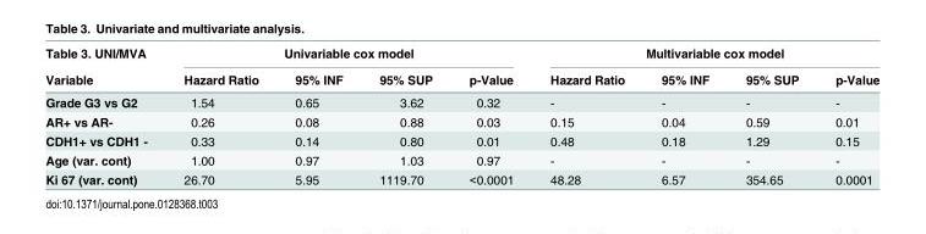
<table><thead><tr><td rowspan="2">Table 3. UNI/MVA Variable</td><td colspan="4">Univariable cox model</td><td colspan="4">Multivariable cox model</td></tr><tr><td>Hazard Ratio</td><td>95% INF</td><td>95% SUP</td><td>p-Value</td><td>Hazard Ratio</td><td>95% INF</td><td>95% SUP</td><td>p-Value</td></tr></thead><tbody><tr><td>Grade G3 vs G2</td><td>1.54</td><td>0.65</td><td>3.62</td><td>0.32</td><td>-</td><td>-</td><td>-</td><td>-</td></tr><tr><td>AR+ vs AR-</td><td>0.26</td><td>0.08</td><td>0.88</td><td>0.03</td><td>0.15</td><td>0.04</td><td>0.59</td><td>0.01</td></tr><tr><td>CDH1+ vs CDH1 -</td><td>0.33</td><td>0.14</td><td>0.80</td><td>0.01</td><td>0.48</td><td>0.18</td><td>1.29</td><td>0.15</td></tr><tr><td>Age (var. cont)</td><td>1.00</td><td>0.97</td><td>1.03</td><td>0.97</td><td>-</td><td>-</td><td>-</td><td>-</td></tr><tr><td>Ki 67 (var. cont)</td><td>26.70</td><td>5.95</td><td>1119.70</td><td>&lt;0.0001</td><td>48.28</td><td>6.57</td><td>354.65</td><td>0.0001</td></tr></tbody></table>